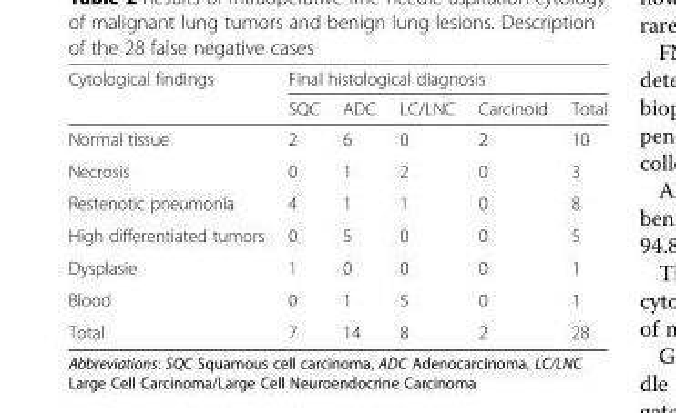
<table><thead><tr><td rowspan="2">Cytological findings</td><td colspan="5">Final histological diagnosis</td></tr><tr><td>SQC</td><td>ADC</td><td>LC/LNC</td><td>Carcinoid</td><td>Total</td></tr></thead><tbody><tr><td>Normal tissue</td><td>2</td><td>6</td><td>0</td><td>2</td><td>10</td></tr><tr><td>Necrosis</td><td>0</td><td>1</td><td>2</td><td>0</td><td>3</td></tr><tr><td>Restenotic pneumonia</td><td>4</td><td>1</td><td>1</td><td>0</td><td>8</td></tr><tr><td>High differentiated tumors</td><td>0</td><td>5</td><td>0</td><td>0</td><td>5</td></tr><tr><td>Dysplasie</td><td>1</td><td>0</td><td>0</td><td>0</td><td>1</td></tr><tr><td>Blood</td><td>0</td><td>1</td><td>5</td><td>0</td><td>1</td></tr><tr><td>Total</td><td>7</td><td>14</td><td>8</td><td>2</td><td>28</td></tr></tbody></table>